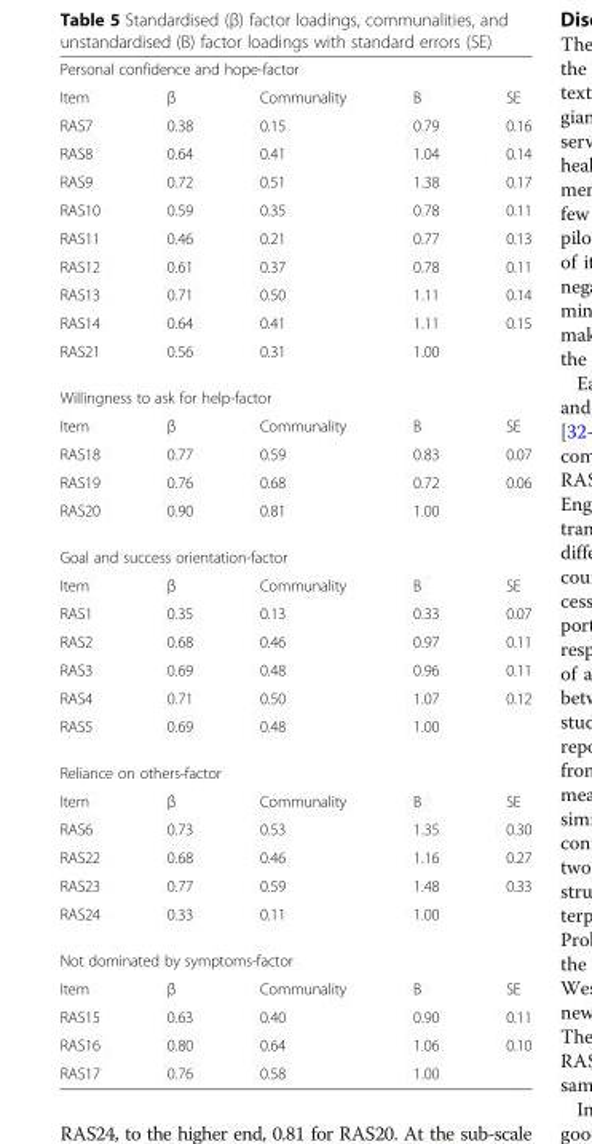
<table><tbody><tr><td colspan="5">Personal confidence and hope-factor</td></tr><tr><td>Item</td><td>β</td><td>Communality</td><td>B</td><td>SE</td></tr><tr><td>RAS7</td><td>0.38</td><td>0.15</td><td>0.79</td><td>0.16</td></tr><tr><td>RAS8</td><td>0.64</td><td>0.41</td><td>1.04</td><td>0.14</td></tr><tr><td>RAS9</td><td>0.72</td><td>0.51</td><td>1.38</td><td>0.17</td></tr><tr><td>RAS10</td><td>0.59</td><td>0.35</td><td>0.78</td><td>0.11</td></tr><tr><td>RAS11</td><td>0.46</td><td>0.21</td><td>0.77</td><td>0.13</td></tr><tr><td>RAS12</td><td>0.61</td><td>0.37</td><td>0.78</td><td>0.11</td></tr><tr><td>RAS13</td><td>0.71</td><td>0.50</td><td>1.11</td><td>0.14</td></tr><tr><td>RAS14</td><td>0.64</td><td>0.41</td><td>1.11</td><td>0.15</td></tr><tr><td>RAS21</td><td>0.56</td><td>0.31</td><td>1.00</td><td></td></tr><tr><td colspan="5">Willingness to ask for help-factor</td></tr><tr><td>Item</td><td>β</td><td>Communality</td><td>B</td><td>SE</td></tr><tr><td>RAS18</td><td>0.77</td><td>0.59</td><td>0.83</td><td>0.07</td></tr><tr><td>RAS19</td><td>0.76</td><td>0.68</td><td>0.72</td><td>0.06</td></tr><tr><td>RAS20</td><td>0.90</td><td>0.81</td><td>1.00</td><td></td></tr><tr><td colspan="5">Goal and success orientation-factor</td></tr><tr><td>Item</td><td>β</td><td>Communality</td><td>B</td><td>SE</td></tr><tr><td>RAS1</td><td>0.35</td><td>0.13</td><td>0.33</td><td>0.07</td></tr><tr><td>RAS2</td><td>0.68</td><td>0.46</td><td>0.97</td><td>0.11</td></tr><tr><td>RAS3</td><td>0.69</td><td>0.48</td><td>0.96</td><td>0.11</td></tr><tr><td>RAS4</td><td>0.71</td><td>0.50</td><td>1.07</td><td>0.12</td></tr><tr><td>RAS5</td><td>0.69</td><td>0.48</td><td>1.00</td><td></td></tr><tr><td colspan="5">Reliance on others-factor</td></tr><tr><td>Item</td><td>β</td><td>Communality</td><td>B</td><td>SE</td></tr><tr><td>RAS6</td><td>0.73</td><td>0.53</td><td>1.35</td><td>0.30</td></tr><tr><td>RAS22</td><td>0.68</td><td>0.46</td><td>1.16</td><td>0.27</td></tr><tr><td>RAS23</td><td>0.77</td><td>0.59</td><td>1.48</td><td>0.33</td></tr><tr><td>RAS24</td><td>0.33</td><td>0.11</td><td>1.00</td><td></td></tr><tr><td colspan="5">Not dominated by symptoms-factor</td></tr><tr><td>Item</td><td>β</td><td>Communality</td><td>B</td><td>SE</td></tr><tr><td>RAS15</td><td>0.63</td><td>0.40</td><td>0.90</td><td>0.11</td></tr><tr><td>RAS16</td><td>0.80</td><td>0.64</td><td>1.06</td><td>0.10</td></tr><tr><td>RAS17</td><td>0.76</td><td>0.58</td><td>1.00</td><td></td></tr></tbody></table>